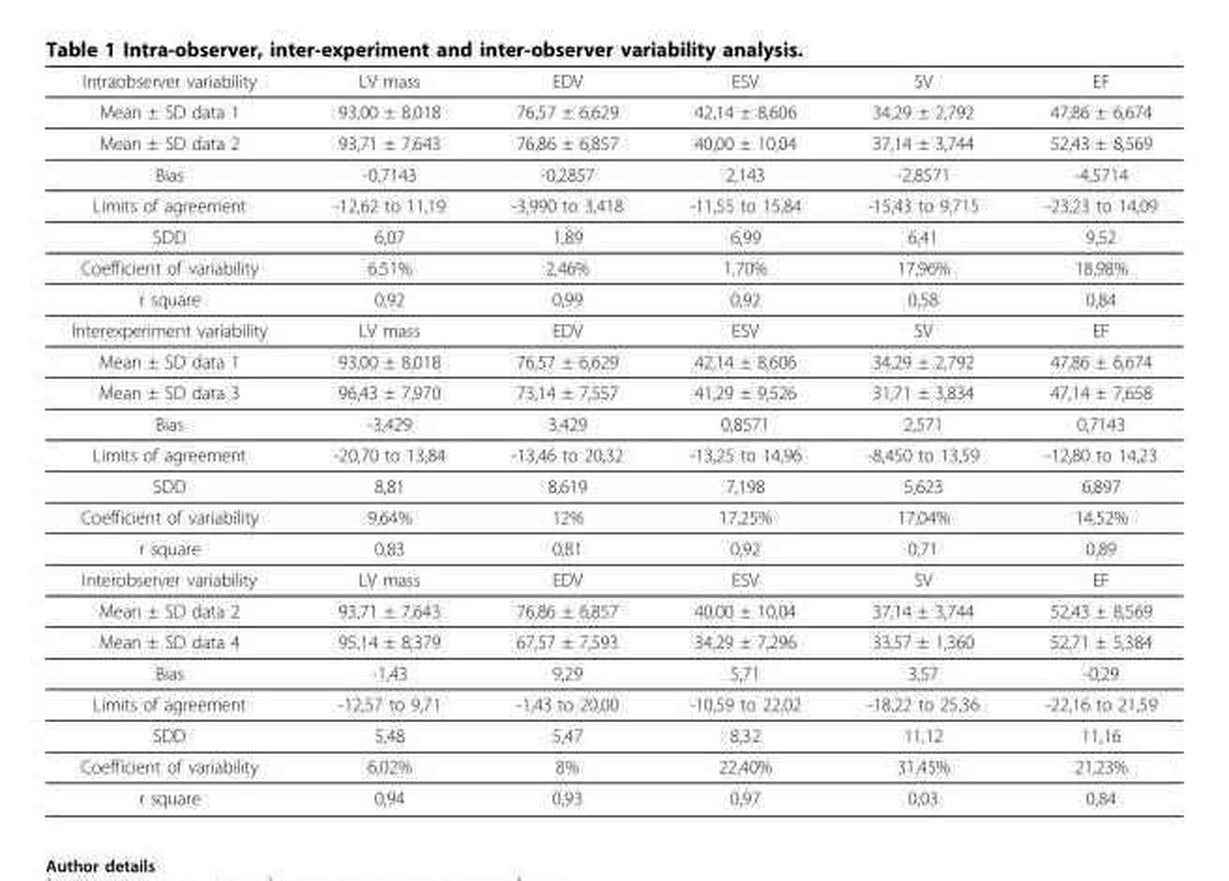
<table><thead><tr><td>Intraobserver variability</td><td>LV mass</td><td>EDV</td><td>ESV</td><td>SV</td><td>EF</td></tr></thead><tbody><tr><td>Mean ± SD data 1</td><td>93,00 ± 8,018</td><td>76,57 ± 6,629</td><td>42,14 ± 8,606</td><td>34,29 ± 2,792</td><td>47,86 ± 6,674</td></tr><tr><td>Mean ± SD data 2</td><td>93,71 ± 7,643</td><td>76,86 ± 6,857</td><td>40,00 ± 10,04</td><td>37,14 ± 3,744</td><td>52,43 ± 8,569</td></tr><tr><td>Bias</td><td>-0,7143</td><td>-0,2857</td><td>2,143</td><td>-2,8571</td><td>-4,5714</td></tr><tr><td>Limits of agreement</td><td>-12,62 to 11,19</td><td>-3,990 to 3,418</td><td>-11,55 to 15,84</td><td>-15,43 to 9,715</td><td>-23,23 to 14,09</td></tr><tr><td>SDD</td><td>6,07</td><td>1,89</td><td>6,99</td><td>6,41</td><td>9,52</td></tr><tr><td>Coefficient of variability</td><td>6,51%</td><td>2,46%</td><td>1,70%</td><td>17,96%</td><td>18,98%</td></tr><tr><td>r square</td><td>0,92</td><td>0,99</td><td>0,92</td><td>0,58</td><td>0,84</td></tr><tr><td>Interexperiment variability</td><td>LV mass</td><td>EDV</td><td>ESV</td><td>SV</td><td>EF</td></tr><tr><td>Mean ± SD data 1</td><td>93,00 ± 8,018</td><td>76,57 ± 6,629</td><td>42,14 ± 8,606</td><td>34,29 ± 2,792</td><td>47,86 ± 6,674</td></tr><tr><td>Mean ± SD data 3</td><td>96,43 ± 7,970</td><td>73,14 ± 7,557</td><td>41,29 ± 9,526</td><td>31,71 ± 3,834</td><td>47,14 ± 7,658</td></tr><tr><td>Bias</td><td>-3,429</td><td>3,429</td><td>0,8571</td><td>2,571</td><td>0,7143</td></tr><tr><td>Limits of agreement</td><td>-20,70 to 13,84</td><td>-13,46 to 20,32</td><td>-13,25 to 14,96</td><td>-8,450 to 13,59</td><td>-12,80 to 14,23</td></tr><tr><td>SDD</td><td>8,81</td><td>8,619</td><td>7,198</td><td>5,623</td><td>6,897</td></tr><tr><td>Coefficient of variability</td><td>9,64%</td><td>12%</td><td>17,25%</td><td>17,04%</td><td>14,52%</td></tr><tr><td>r square</td><td>0,83</td><td>0,81</td><td>0,92</td><td>0,71</td><td>0,89</td></tr><tr><td>Interobserver variability</td><td>LV mass</td><td>EDV</td><td>ESV</td><td>SV</td><td>EF</td></tr><tr><td>Mean ± SD data 2</td><td>93,71 ± 7,643</td><td>76,86 ± 6,857</td><td>40,00 ± 10,04</td><td>37,14 ± 3,744</td><td>52,43 ± 8,569</td></tr><tr><td>Mean ± SD data 4</td><td>95,14 ± 8,379</td><td>67,57 ± 7,593</td><td>34,29 ± 7,296</td><td>33,57 ± 1,360</td><td>52,71 ± 5,384</td></tr><tr><td>Bias</td><td>-1,43</td><td>9,29</td><td>5,71</td><td>3,57</td><td>-0,29</td></tr><tr><td>Limits of agreement</td><td>-12,57 to 9,71</td><td>-1,43 to 20,00</td><td>-10,59 to 22,02</td><td>-18,22 to 25,36</td><td>-22,16 to 21,59</td></tr><tr><td>SDD</td><td>5,48</td><td>5,47</td><td>8,32</td><td>11,12</td><td>11,16</td></tr><tr><td>Coefficient of variability</td><td>6,02%</td><td>8%</td><td>22,40%</td><td>31,45%</td><td>21,23%</td></tr><tr><td>r square</td><td>0,94</td><td>0,93</td><td>0,97</td><td>0,03</td><td>0,84</td></tr></tbody></table>